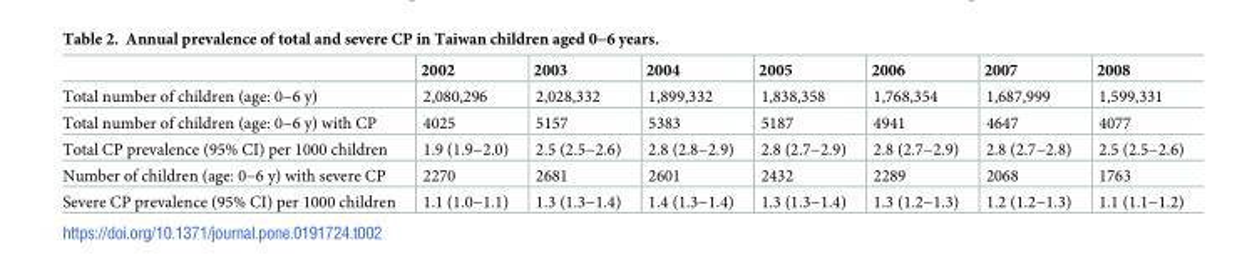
<table><thead><tr><td></td><td>2002</td><td>2003</td><td>2004</td><td>2005</td><td>2006</td><td>2007</td><td>2008</td></tr></thead><tbody><tr><td>Total number of children (age: 0−6 y)</td><td>2,080,296</td><td>2,028,332</td><td>1,899,332</td><td>1,838,358</td><td>1,768,354</td><td>1,687,999</td><td>1,599,331</td></tr><tr><td>Total number of children (age: 0−6 y) with CP</td><td>4025</td><td>5157</td><td>5383</td><td>5187</td><td>4941</td><td>4647</td><td>4077</td></tr><tr><td>Total CP prevalence (95% CI) per 1000 children</td><td>1.9 (1.9−2.0)</td><td>2.5 (2.5−2.6)</td><td>2.8 (2.8−2.9)</td><td>2.8 (2.7−2.9)</td><td>2.8 (2.7−2.9)</td><td>2.8 (2.7−2.8)</td><td>2.5 (2.5−2.6)</td></tr><tr><td>Number of children (age: 0−6 y) with severe CP</td><td>2270</td><td>2681</td><td>2601</td><td>2432</td><td>2289</td><td>2068</td><td>1763</td></tr><tr><td>Severe CP prevalence (95% CI) per 1000 children</td><td>1.1 (1.0−1.1)</td><td>1.3 (1.3−1.4)</td><td>1.4 (1.3−1.4)</td><td>1.3 (1.3−1.4)</td><td>1.3 (1.2−1.3)</td><td>1.2 (1.2−1.3)</td><td>1.1 (1.1−1.2)</td></tr></tbody></table>